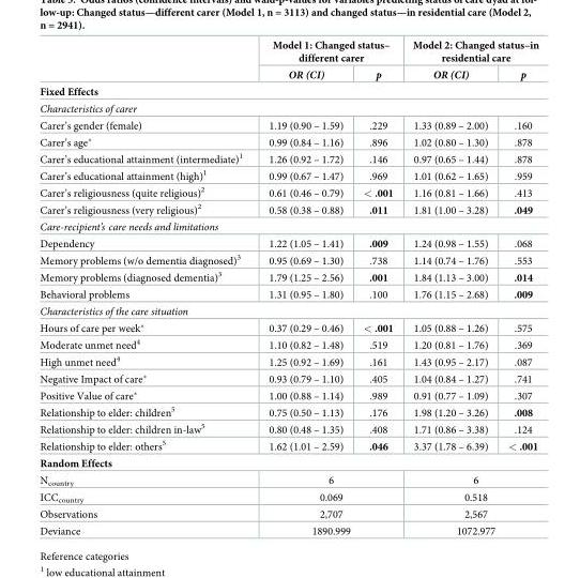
<table><thead><tr><td rowspan="2"></td><td colspan="2">Model 1: Changed status– different carer</td><td colspan="2">Model 2: Changed status–in residential care</td></tr><tr><td>OR (CI)</td><td>p</td><td>OR (CI)</td><td>p</td></tr></thead><tbody><tr><td colspan="5">Fixed Effects</td></tr><tr><td colspan="5">Characteristics of carer</td></tr><tr><td>Carer’s gender (female)</td><td>1.19 (0.90 – 1.59)</td><td>.229</td><td>1.33 (0.89 – 2.00)</td><td>.160</td></tr><tr><td>Carer’s age*</td><td>0.99 (0.84 – 1.16)</td><td>.896</td><td>1.02 (0.80 – 1.30)</td><td>.878</td></tr><tr><td>Carer’s educational attainment (intermediate)<sup>1</sup></td><td>1.26 (0.92 – 1.72)</td><td>.146</td><td>0.97 (0.65 – 1.44)</td><td>.878</td></tr><tr><td>Carer’s educational attainment (high)<sup>1</sup></td><td>0.99 (0.67 – 1.47)</td><td>.969</td><td>1.01 (0.62 – 1.65)</td><td>.959</td></tr><tr><td>Carer’s religiousness (quite religious)<sup>2</sup></td><td>0.61 (0.46 – 0.79)</td><td>&lt; .001</td><td>1.16 (0.81 – 1.66)</td><td>.413</td></tr><tr><td>Carer’s religiousness (very religious)<sup>2</sup></td><td>0.58 (0.38 – 0.88)</td><td>.011</td><td>1.81 (1.00 – 3.28)</td><td>.049</td></tr><tr><td colspan="5">Care-recipient’s care needs and limitations</td></tr><tr><td>Dependency</td><td>1.22 (1.05 – 1.41)</td><td>.009</td><td>1.24 (0.98 – 1.55)</td><td>.068</td></tr><tr><td>Memory problems (w/o dementia diagnosed)<sup>3</sup></td><td>0.95 (0.69 – 1.30)</td><td>.738</td><td>1.14 (0.74 – 1.76)</td><td>.553</td></tr><tr><td>Memory problems (diagnosed dementia)<sup>3</sup></td><td>1.79 (1.25 – 2.56)</td><td>.001</td><td>1.84 (1.13 – 3.00)</td><td>.014</td></tr><tr><td>Behavioral problems</td><td>1.31 (0.95 – 1.80)</td><td>.100</td><td>1.76 (1.15 – 2.68)</td><td>.009</td></tr><tr><td colspan="5">Characteristics of the care situation</td></tr><tr><td>Hours of care per week*</td><td>0.37 (0.29 – 0.46)</td><td>&lt; .001</td><td>1.05 (0.88 – 1.26)</td><td>.575</td></tr><tr><td>Moderate unmet need<sup>4</sup></td><td>1.10 (0.82 – 1.48)</td><td>.519</td><td>1.20 (0.81 – 1.76)</td><td>.369</td></tr><tr><td>High unmet need<sup>4</sup></td><td>1.25 (0.92 – 1.69)</td><td>.161</td><td>1.43 (0.95 – 2.17)</td><td>.087</td></tr><tr><td>Negative Impact of care*</td><td>0.93 (0.79 – 1.10)</td><td>.405</td><td>1.04 (0.84 – 1.27)</td><td>.741</td></tr><tr><td>Positive Value of care*</td><td>1.00 (0.88 – 1.14)</td><td>.989</td><td>0.91 (0.77 – 1.09)</td><td>.307</td></tr><tr><td>Relationship to elder: children<sup>5</sup></td><td>0.75 (0.50 – 1.13)</td><td>.176</td><td>1.98 (1.20 – 3.26)</td><td>.008</td></tr><tr><td>Relationship to elder: children in-law<sup>5</sup></td><td>0.80 (0.48 – 1.35)</td><td>.408</td><td>1.71 (0.86 – 3.38)</td><td>.124</td></tr><tr><td>Relationship to elder: others<sup>5</sup></td><td>1.62 (1.01 – 2.59)</td><td>.046</td><td>3.37 (1.78 – 6.39)</td><td>&lt; .001</td></tr><tr><td colspan="5">Random Effects</td></tr><tr><td>N<sub>country</sub></td><td colspan="2">6</td><td colspan="2">6</td></tr><tr><td>ICC<sub>country</sub></td><td colspan="2">0.069</td><td colspan="2">0.518</td></tr><tr><td>Observations</td><td colspan="2">2,707</td><td colspan="2">2,567</td></tr><tr><td>Deviance</td><td colspan="2">1890.999</td><td colspan="2">1072.977</td></tr></tbody></table>